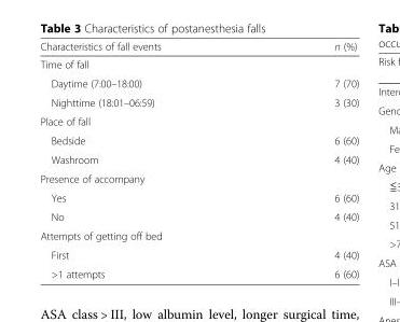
<table><thead><tr><td>Characteristics of fall events</td><td>n (%)</td></tr></thead><tbody><tr><td colspan="2">Time of fall</td></tr><tr><td>Daytime (7:00–18:00)</td><td>7 (70)</td></tr><tr><td>Nighttime (18:01–06:59)</td><td>3 (30)</td></tr><tr><td colspan="2">Place of fall</td></tr><tr><td>Bedside</td><td>6 (60)</td></tr><tr><td>Washroom</td><td>4 (40)</td></tr><tr><td colspan="2">Presence of accompany</td></tr><tr><td>Yes</td><td>6 (60)</td></tr><tr><td>No</td><td>4 (40)</td></tr><tr><td colspan="2">Attempts of getting off bed</td></tr><tr><td>First</td><td>4 (40)</td></tr><tr><td>&gt;1 attempts</td><td>6 (60)</td></tr></tbody></table>